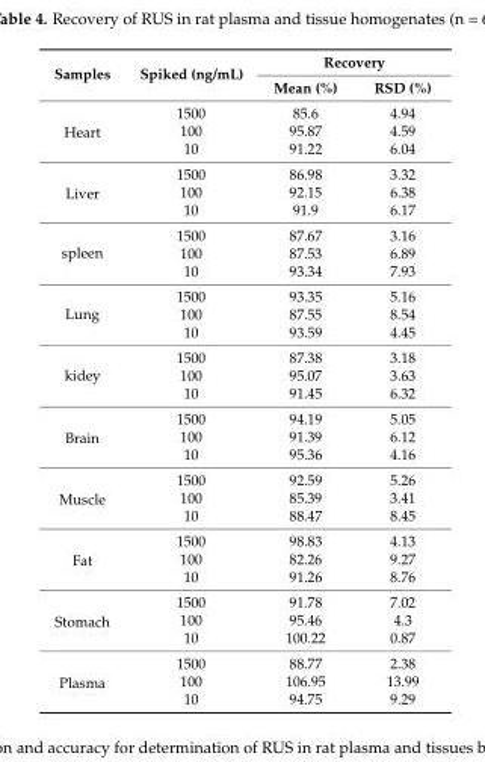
<table><thead><tr><td rowspan="2">Samples</td><td rowspan="2">Spiked (ng/mL)</td><td colspan="2">Recovery</td></tr><tr><td>Mean (%)</td><td>RSD (%)</td></tr></thead><tbody><tr><td rowspan="3">Heart</td><td>1500</td><td>85.6</td><td>4.94</td></tr><tr><td>100</td><td>95.87</td><td>4.59</td></tr><tr><td>10</td><td>91.22</td><td>6.04</td></tr><tr><td rowspan="3">Liver</td><td>1500</td><td>86.98</td><td>3.32</td></tr><tr><td>100</td><td>92.15</td><td>6.38</td></tr><tr><td>10</td><td>91.9</td><td>6.17</td></tr><tr><td rowspan="3">spleen</td><td>1500</td><td>87.67</td><td>3.16</td></tr><tr><td>100</td><td>87.53</td><td>6.89</td></tr><tr><td>10</td><td>93.34</td><td>7.93</td></tr><tr><td rowspan="3">Lung</td><td>1500</td><td>93.35</td><td>5.16</td></tr><tr><td>100</td><td>87.55</td><td>8.54</td></tr><tr><td>10</td><td>93.59</td><td>4.45</td></tr><tr><td rowspan="3">kidey</td><td>1500</td><td>87.38</td><td>3.18</td></tr><tr><td>100</td><td>95.07</td><td>3.63</td></tr><tr><td>10</td><td>91.45</td><td>6.32</td></tr><tr><td rowspan="3">Brain</td><td>1500</td><td>94.19</td><td>5.05</td></tr><tr><td>100</td><td>91.39</td><td>6.12</td></tr><tr><td>10</td><td>95.36</td><td>4.16</td></tr><tr><td rowspan="3">Muscle</td><td>1500</td><td>92.59</td><td>5.26</td></tr><tr><td>100</td><td>85.39</td><td>3.41</td></tr><tr><td>10</td><td>88.47</td><td>8.45</td></tr><tr><td rowspan="3">Fat</td><td>1500</td><td>98.83</td><td>4.13</td></tr><tr><td>100</td><td>82.26</td><td>9.27</td></tr><tr><td>10</td><td>91.26</td><td>8.76</td></tr><tr><td rowspan="3">Stomach</td><td>1500</td><td>91.78</td><td>7.02</td></tr><tr><td>100</td><td>95.46</td><td>4.3</td></tr><tr><td>10</td><td>100.22</td><td>0.87</td></tr><tr><td rowspan="3">Plasma</td><td>1500</td><td>88.77</td><td>2.38</td></tr><tr><td>100</td><td>106.95</td><td>13.99</td></tr><tr><td>10</td><td>94.75</td><td>9.29</td></tr></tbody></table>